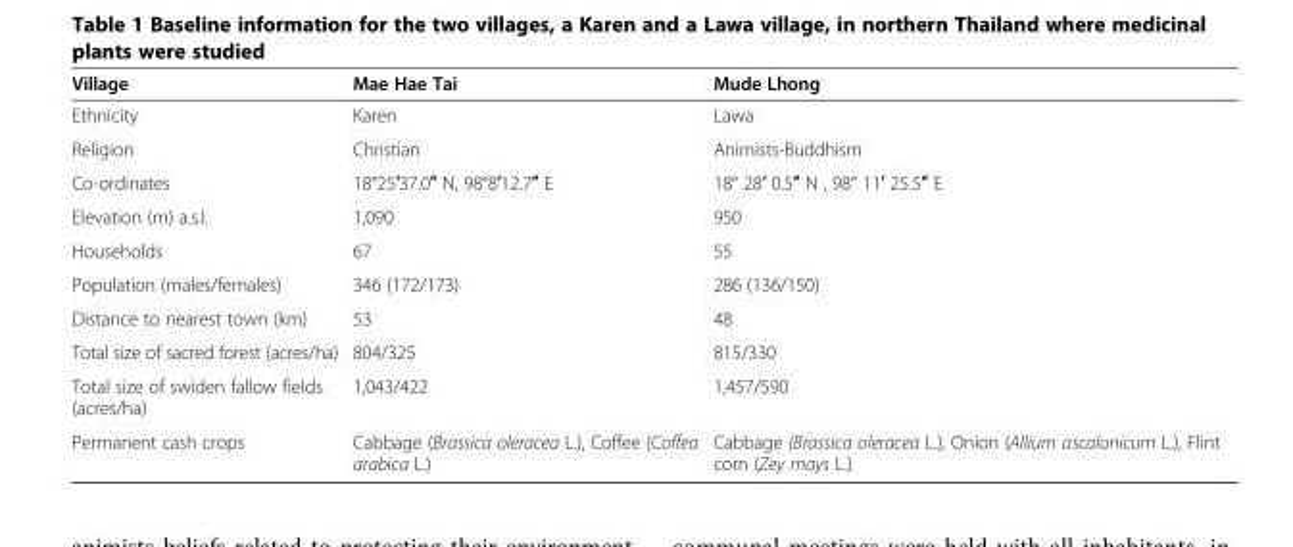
<table><thead><tr><td>Village</td><td>Mae Hae Tai</td><td>Mude Lhong</td></tr></thead><tbody><tr><td>Ethnicity</td><td>Karen</td><td>Lawa</td></tr><tr><td>Religion</td><td>Christian</td><td>Animists-Buddhism</td></tr><tr><td>Co-ordinates</td><td>18°25′37.0″ N, 98°8′12.7″ E</td><td>18° 28′ 0.5″ N , 98° 11′ 25.5″ E</td></tr><tr><td>Elevation (m) a.s.l.</td><td>1,090</td><td>950</td></tr><tr><td>Households</td><td>67</td><td>55</td></tr><tr><td>Population (males/females)</td><td>346 (172/173)</td><td>286 (136/150)</td></tr><tr><td>Distance to nearest town (km)</td><td>53</td><td>48</td></tr><tr><td>Total size of sacred forest (acres/ha)</td><td>804/325</td><td>815/330</td></tr><tr><td>Total size of swiden fallow fields (acres/ha)</td><td>1,043/422</td><td>1,457/590</td></tr><tr><td>Permanent cash crops</td><td>Cabbage (Brassica oleracea L.), Coffee (Coffea arabica L.)</td><td>Cabbage (Brassica oleracea L.), Onion (Allium ascalonicum L.), Flint corn (Zey mays L.)</td></tr></tbody></table>